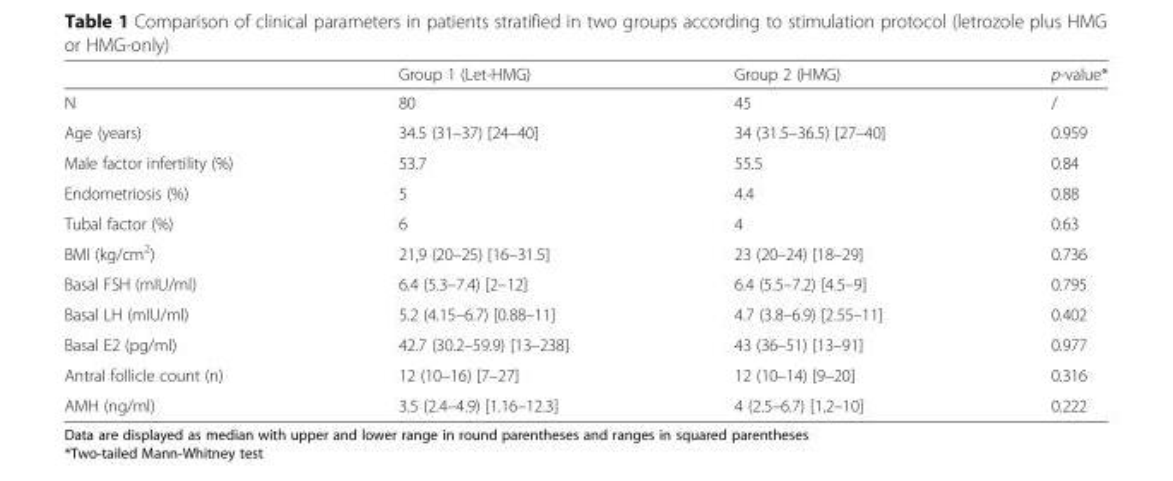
<table><thead><tr><td></td><td>Group 1 (Let-HMG)</td><td>Group 2 (HMG)</td><td>p-value*</td></tr></thead><tbody><tr><td>N</td><td>80</td><td>45</td><td>/</td></tr><tr><td>Age (years)</td><td>34.5 (31–37) [24–40]</td><td>34 (31.5–36.5) [27–40]</td><td>0.959</td></tr><tr><td>Male factor infertility (%)</td><td>53.7</td><td>55.5</td><td>0.84</td></tr><tr><td>Endometriosis (%)</td><td>5</td><td>4.4</td><td>0.88</td></tr><tr><td>Tubal factor (%)</td><td>6</td><td>4</td><td>0.63</td></tr><tr><td>BMI (kg/cm<sup>2</sup>)</td><td>21,9 (20–25) [16–31.5]</td><td>23 (20–24) [18–29]</td><td>0.736</td></tr><tr><td>Basal FSH (mIU/ml)</td><td>6.4 (5.3–7.4) [2–12]</td><td>6.4 (5.5–7.2) [4.5–9]</td><td>0.795</td></tr><tr><td>Basal LH (mIU/ml)</td><td>5.2 (4.15–6.7) [0.88–11]</td><td>4.7 (3.8–6.9) [2.55–11]</td><td>0.402</td></tr><tr><td>Basal E2 (pg/ml)</td><td>42.7 (30.2–59.9) [13–238]</td><td>43 (36–51) [13–91]</td><td>0.977</td></tr><tr><td>Antral follicle count (n)</td><td>12 (10–16) [7–27]</td><td>12 (10–14) [9–20]</td><td>0.316</td></tr><tr><td>AMH (ng/ml)</td><td>3.5 (2.4–4.9) [1.16–12.3]</td><td>4 (2.5–6.7) [1.2–10]</td><td>0.222</td></tr></tbody></table>